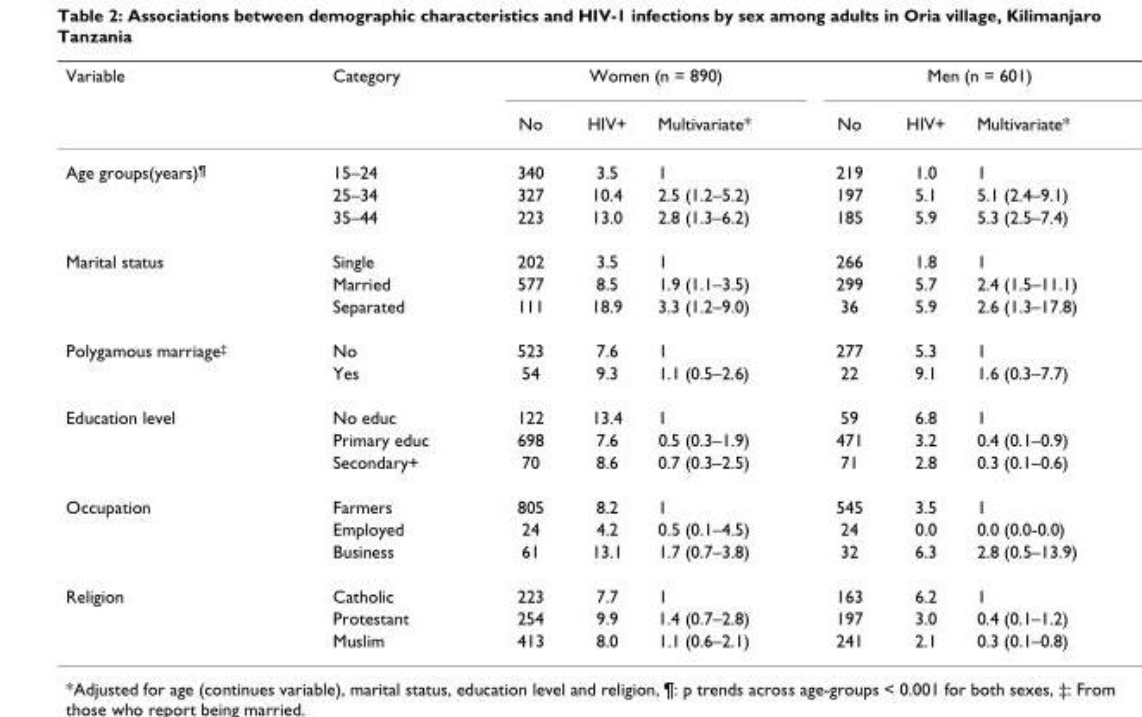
<table><thead><tr><td rowspan="2">Variable</td><td rowspan="2">Category</td><td colspan="3">Women (n = 890)</td><td colspan="3">Men (n = 601)</td></tr><tr><td>No</td><td>HIV+</td><td>Multivariate*</td><td>No</td><td>HIV+</td><td>Multivariate*</td></tr></thead><tbody><tr><td rowspan="3">Age groups(years)<sup>¶</sup></td><td>15–24</td><td>340</td><td>3.5</td><td>1</td><td>219</td><td>1.0</td><td>1</td></tr><tr><td>25–34</td><td>327</td><td>10.4</td><td>2.5 (1.2–5.2)</td><td>197</td><td>5.1</td><td>5.1 (2.4–9.1)</td></tr><tr><td>35–44</td><td>223</td><td>13.0</td><td>2.8 (1.3–6.2)</td><td>185</td><td>5.9</td><td>5.3 (2.5–7.4)</td></tr><tr><td rowspan="3">Marital status</td><td>Single</td><td>202</td><td>3.5</td><td>1</td><td>266</td><td>1.8</td><td>1</td></tr><tr><td>Married</td><td>577</td><td>8.5</td><td>1.9 (1.1–3.5)</td><td>299</td><td>5.7</td><td>2.4 (1.5–11.1)</td></tr><tr><td>Separated</td><td>111</td><td>18.9</td><td>3.3 (1.2–9.0)</td><td>36</td><td>5.9</td><td>2.6 (1.3–17.8)</td></tr><tr><td rowspan="2">Polygamous marriage<sup>‡</sup></td><td>No</td><td>523</td><td>7.6</td><td>1</td><td>277</td><td>5.3</td><td>1</td></tr><tr><td>Yes</td><td>54</td><td>9.3</td><td>1.1 (0.5–2.6)</td><td>22</td><td>9.1</td><td>1.6 (0.3–7.7)</td></tr><tr><td rowspan="3">Education level</td><td>No educ</td><td>122</td><td>13.4</td><td>1</td><td>59</td><td>6.8</td><td>1</td></tr><tr><td>Primary educ</td><td>698</td><td>7.6</td><td>0.5 (0.3–1.9)</td><td>471</td><td>3.2</td><td>0.4 (0.1–0.9)</td></tr><tr><td>Secondary+</td><td>70</td><td>8.6</td><td>0.7 (0.3–2.5)</td><td>71</td><td>2.8</td><td>0.3 (0.1–0.6)</td></tr><tr><td rowspan="3">Occupation</td><td>Farmers</td><td>805</td><td>8.2</td><td>1</td><td>545</td><td>3.5</td><td>1</td></tr><tr><td>Employed</td><td>24</td><td>4.2</td><td>0.5 (0.1–4.5)</td><td>24</td><td>0.0</td><td>0.0 (0.0-0.0)</td></tr><tr><td>Business</td><td>61</td><td>13.1</td><td>1.7 (0.7–3.8)</td><td>32</td><td>6.3</td><td>2.8 (0.5–13.9)</td></tr><tr><td rowspan="3">Religion</td><td>Catholic</td><td>223</td><td>7.7</td><td>1</td><td>163</td><td>6.2</td><td>1</td></tr><tr><td>Protestant</td><td>254</td><td>9.9</td><td>1.4 (0.7–2.8)</td><td>197</td><td>3.0</td><td>0.4 (0.1–1.2)</td></tr><tr><td>Muslim</td><td>413</td><td>8.0</td><td>1.1 (0.6–2.1)</td><td>241</td><td>2.1</td><td>0.3 (0.1–0.8)</td></tr></tbody></table>